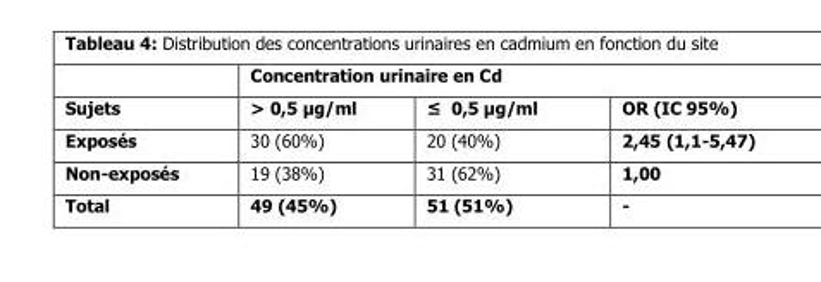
<table><thead><tr><td rowspan="2">Sujets</td><td colspan="3">Concentration urinaire en Cd</td></tr><tr><td>&gt; 0,5 µg/ml</td><td>≤ 0,5 µg/ml</td><td>OR (IC 95%)</td></tr></thead><tbody><tr><td>Exposés</td><td>30 (60%)</td><td>20 (40%)</td><td>2,45 (1,1-5,47)</td></tr><tr><td>Non-exposés</td><td>19 (38%)</td><td>31 (62%)</td><td>1,00</td></tr><tr><td>Total</td><td>49 (45%)</td><td>51 (51%)</td><td>-</td></tr></tbody></table>